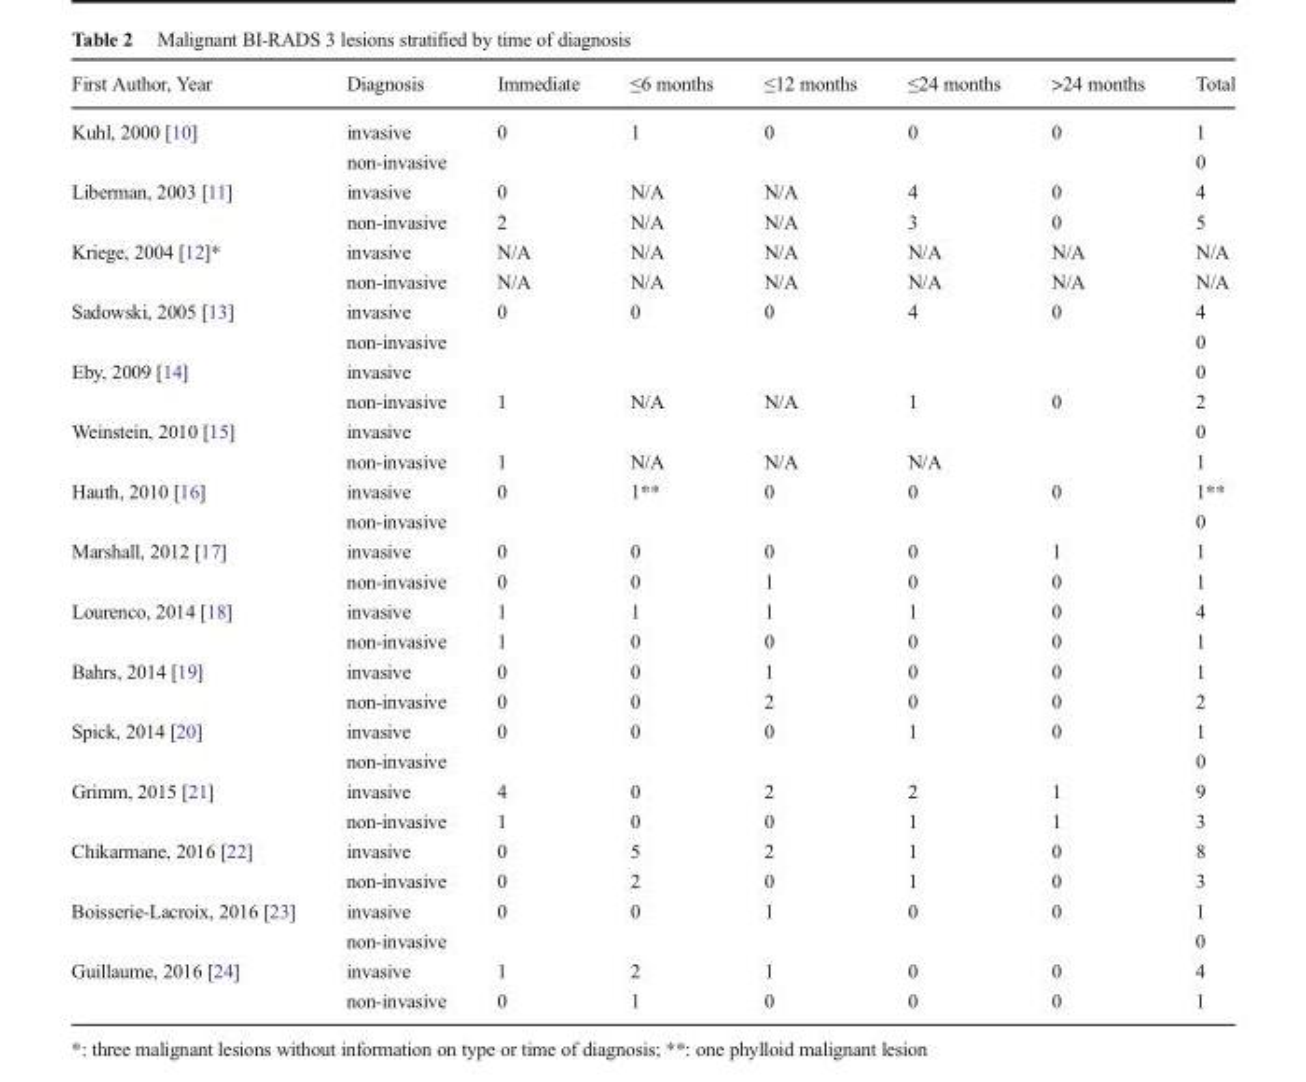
<table><thead><tr><td>First Author, Year</td><td>Diagnosis</td><td>Immediate</td><td>≤6 months</td><td>≤12 months</td><td>≤24 months</td><td>&gt;24 months</td><td>Total</td></tr></thead><tbody><tr><td rowspan="2">Kuhl, 2000 [10]</td><td>invasive</td><td>0</td><td>1</td><td>0</td><td>0</td><td>0</td><td>1</td></tr><tr><td colspan="2">non-invasive</td><td></td><td></td><td></td><td></td><td>0</td></tr><tr><td rowspan="2">Liberman, 2003 [11]</td><td>invasive</td><td>0</td><td>N/A</td><td>N/A</td><td>4</td><td>0</td><td>4</td></tr><tr><td>non-invasive</td><td>2</td><td>N/A</td><td>N/A</td><td>3</td><td>0</td><td>5</td></tr><tr><td rowspan="2">Kriege, 2004 [12]*</td><td>invasive</td><td>N/A</td><td>N/A</td><td>N/A</td><td>N/A</td><td>N/A</td><td>N/A</td></tr><tr><td>non-invasive</td><td>N/A</td><td>N/A</td><td>N/A</td><td>N/A</td><td>N/A</td><td>N/A</td></tr><tr><td rowspan="2">Sadowski, 2005 [13]</td><td>invasive</td><td>0</td><td>0</td><td>0</td><td>4</td><td>0</td><td>4</td></tr><tr><td colspan="2">non-invasive</td><td></td><td></td><td></td><td></td><td>0</td></tr><tr><td rowspan="2">Eby, 2009 [14]</td><td>invasive</td><td></td><td></td><td></td><td></td><td></td><td>0</td></tr><tr><td>non-invasive</td><td>1</td><td>N/A</td><td>N/A</td><td>1</td><td>0</td><td>2</td></tr><tr><td rowspan="2">Weinstein, 2010 [15]</td><td>invasive</td><td></td><td></td><td></td><td></td><td></td><td>0</td></tr><tr><td>non-invasive</td><td>1</td><td>N/A</td><td>N/A</td><td>N/A</td><td></td><td>1</td></tr><tr><td rowspan="2">Hauth, 2010 [16]</td><td>invasive</td><td>0</td><td>1**</td><td>0</td><td>0</td><td>0</td><td>1**</td></tr><tr><td colspan="2">non-invasive</td><td></td><td></td><td></td><td></td><td>0</td></tr><tr><td rowspan="2">Marshall, 2012 [17]</td><td>invasive</td><td>0</td><td>0</td><td>0</td><td>0</td><td>1</td><td>1</td></tr><tr><td>non-invasive</td><td>0</td><td>0</td><td>1</td><td>0</td><td>0</td><td>1</td></tr><tr><td rowspan="2">Lourenco, 2014 [18]</td><td>invasive</td><td>1</td><td>1</td><td>1</td><td>1</td><td>0</td><td>4</td></tr><tr><td>non-invasive</td><td>1</td><td>0</td><td>0</td><td>0</td><td>0</td><td>1</td></tr><tr><td rowspan="2">Bahrs, 2014 [19]</td><td>invasive</td><td>0</td><td>0</td><td>1</td><td>0</td><td>0</td><td>1</td></tr><tr><td>non-invasive</td><td>0</td><td>0</td><td>2</td><td>0</td><td>0</td><td>2</td></tr><tr><td rowspan="2">Spick, 2014 [20]</td><td>invasive</td><td>0</td><td>0</td><td>0</td><td>1</td><td>0</td><td>1</td></tr><tr><td>non-invasive</td><td></td><td></td><td></td><td></td><td></td><td>0</td></tr><tr><td rowspan="2">Grimm, 2015 [21]</td><td>invasive</td><td>4</td><td>0</td><td>2</td><td>2</td><td>1</td><td>9</td></tr><tr><td>non-invasive</td><td>1</td><td>0</td><td>0</td><td>1</td><td>1</td><td>3</td></tr><tr><td rowspan="2">Chikarmane, 2016 [22]</td><td>invasive</td><td>0</td><td>5</td><td>2</td><td>1</td><td>0</td><td>8</td></tr><tr><td>non-invasive</td><td>0</td><td>2</td><td>0</td><td>1</td><td>0</td><td>3</td></tr><tr><td rowspan="2">Boisserie-Lacroix, 2016 [23]</td><td>invasive</td><td>0</td><td>0</td><td>1</td><td>0</td><td>0</td><td>1</td></tr><tr><td colspan="2">non-invasive</td><td></td><td></td><td></td><td></td><td>0</td></tr><tr><td rowspan="2">Guillaume, 2016 [24]</td><td>invasive</td><td>1</td><td>2</td><td>1</td><td>0</td><td>0</td><td>4</td></tr><tr><td>non-invasive</td><td>0</td><td>1</td><td>0</td><td>0</td><td>0</td><td>1</td></tr></tbody></table>